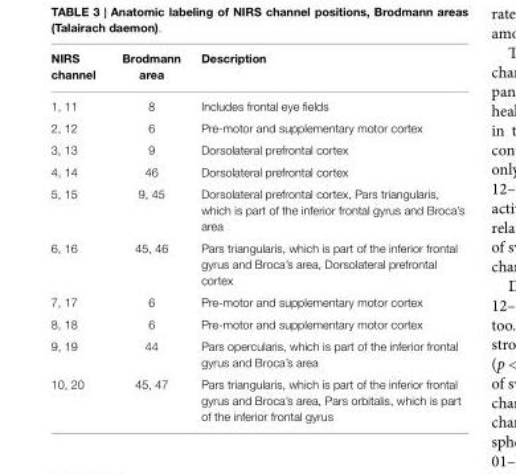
<table><thead><tr><td>NIRS channel</td><td>Brodmann area</td><td>Description</td></tr></thead><tbody><tr><td>1, 11</td><td>8</td><td>Includes frontal eye fields</td></tr><tr><td>2, 12</td><td>6</td><td>Pre-motor and supplementary motor cortex</td></tr><tr><td>3, 13</td><td>9</td><td>Dorsolateral prefrontal cortex</td></tr><tr><td>4, 14</td><td>46</td><td>Dorsolateral prefrontal cortex</td></tr><tr><td>5, 15</td><td>9, 45</td><td>Dorsolateral prefrontal cortex, Pars triangularis, which is part of the inferior frontal gyrus and Broca’s area</td></tr><tr><td>6, 16</td><td>45, 46</td><td>Pars triangularis, which is part of the inferior frontal gyrus and Broca’s area, Dorsolateral prefrontal cortex</td></tr><tr><td>7, 17</td><td>6</td><td>Pre-motor and supplementary motor cortex</td></tr><tr><td>8, 18</td><td>6</td><td>Pre-motor and supplementary motor cortex</td></tr><tr><td>9, 19</td><td>44</td><td>Pars opercularis, which is part of the inferior frontal gyrus and Broca’s area</td></tr><tr><td>10, 20</td><td>45, 47</td><td>Pars triangularis, which is part of the inferior frontal gyrus and Broca’s area, Pars orbitalis, which is part of the inferior frontal gyrus</td></tr></tbody></table>